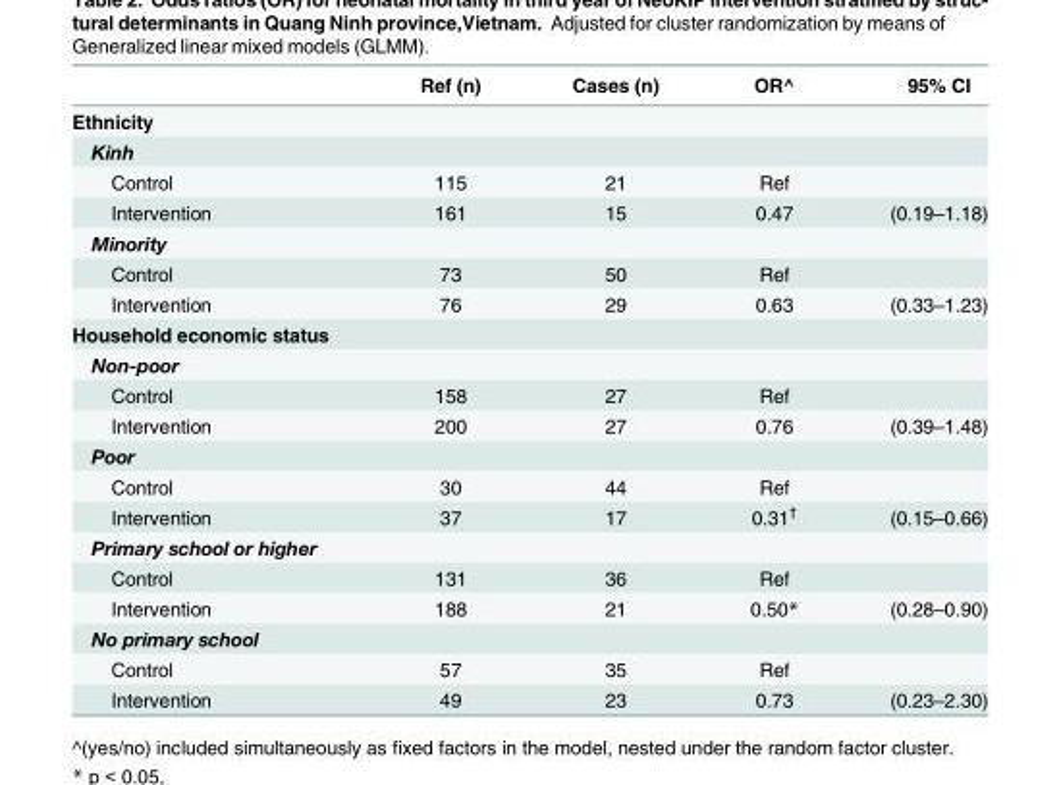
<table><thead><tr><td></td><td>Ref (n)</td><td>Cases (n)</td><td>OR^</td><td>95% CI</td></tr></thead><tbody><tr><td colspan="5">Ethnicity</td></tr><tr><td colspan="5">Kinh</td></tr><tr><td>Control</td><td>115</td><td>21</td><td>Ref</td><td></td></tr><tr><td>Intervention</td><td>161</td><td>15</td><td>0.47</td><td>(0.19–1.18)</td></tr><tr><td colspan="5">Minority</td></tr><tr><td>Control</td><td>73</td><td>50</td><td>Ref</td><td></td></tr><tr><td>Intervention</td><td>76</td><td>29</td><td>0.63</td><td>(0.33–1.23)</td></tr><tr><td colspan="5">Household economic status</td></tr><tr><td colspan="5">Non-poor</td></tr><tr><td>Control</td><td>158</td><td>27</td><td>Ref</td><td></td></tr><tr><td>Intervention</td><td>200</td><td>27</td><td>0.76</td><td>(0.39–1.48)</td></tr><tr><td colspan="5">Poor</td></tr><tr><td>Control</td><td>30</td><td>44</td><td>Ref</td><td></td></tr><tr><td>Intervention</td><td>37</td><td>17</td><td>0.31<sup>†</sup></td><td>(0.15–0.66)</td></tr><tr><td colspan="5">Primary school or higher</td></tr><tr><td>Control</td><td>131</td><td>36</td><td>Ref</td><td></td></tr><tr><td>Intervention</td><td>188</td><td>21</td><td>0.50*</td><td>(0.28–0.90)</td></tr><tr><td colspan="5">No primary school</td></tr><tr><td>Control</td><td>57</td><td>35</td><td>Ref</td><td></td></tr><tr><td>Intervention</td><td>49</td><td>23</td><td>0.73</td><td>(0.23–2.30)</td></tr></tbody></table>